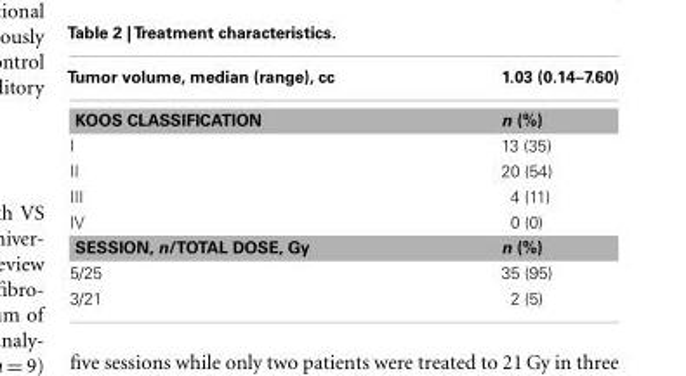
<table><thead><tr><td>Tumor volume, median (range), cc</td><td>1.03 (0.14–7.60)</td></tr></thead><tbody><tr><td>KOOS CLASSIFICATION</td><td>n (%)</td></tr><tr><td>I</td><td>13 (35)</td></tr><tr><td>II</td><td>20 (54)</td></tr><tr><td>III</td><td>4 (11)</td></tr><tr><td>IV</td><td>0 (0)</td></tr><tr><td>SESSION, n/TOTAL DOSE, Gy</td><td>n (%)</td></tr><tr><td>5/25</td><td>35 (95)</td></tr><tr><td>3/21</td><td>2 (5)</td></tr></tbody></table>